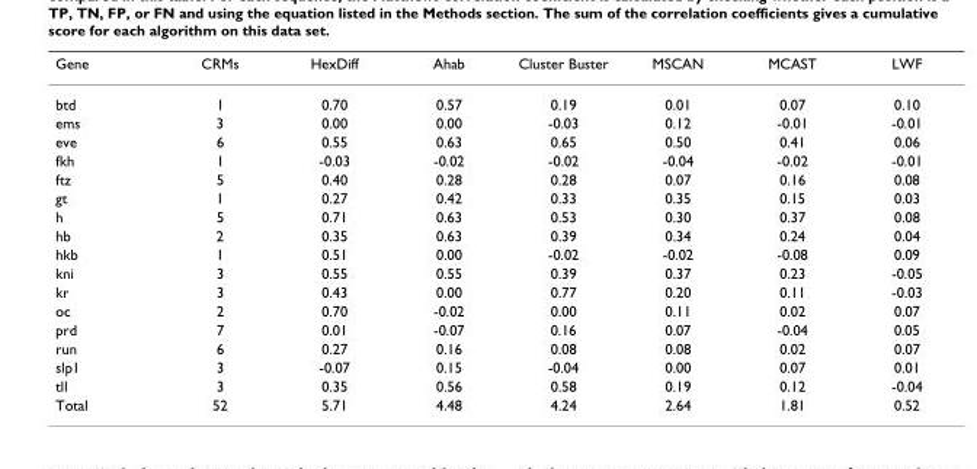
<table><thead><tr><td>Gene</td><td>CRMs</td><td>HexDiff</td><td>Ahab</td><td>Cluster Buster</td><td>MSCAN</td><td>MCAST</td><td>LWF</td></tr></thead><tbody><tr><td>btd</td><td>1</td><td>0.70</td><td>0.57</td><td>0.19</td><td>0.01</td><td>0.07</td><td>0.10</td></tr><tr><td>ems</td><td>3</td><td>0.00</td><td>0.00</td><td>-0.03</td><td>0.12</td><td>-0.01</td><td>-0.01</td></tr><tr><td>eve</td><td>6</td><td>0.55</td><td>0.63</td><td>0.65</td><td>0.50</td><td>0.41</td><td>0.06</td></tr><tr><td>fkh</td><td>1</td><td>-0.03</td><td>-0.02</td><td>-0.02</td><td>-0.04</td><td>-0.02</td><td>-0.01</td></tr><tr><td>ftz</td><td>5</td><td>0.40</td><td>0.28</td><td>0.28</td><td>0.07</td><td>0.16</td><td>0.08</td></tr><tr><td>gt</td><td>1</td><td>0.27</td><td>0.42</td><td>0.33</td><td>0.35</td><td>0.15</td><td>0.03</td></tr><tr><td>h</td><td>5</td><td>0.71</td><td>0.63</td><td>0.53</td><td>0.30</td><td>0.37</td><td>0.08</td></tr><tr><td>hb</td><td>2</td><td>0.35</td><td>0.63</td><td>0.39</td><td>0.34</td><td>0.24</td><td>0.04</td></tr><tr><td>hkb</td><td>1</td><td>0.51</td><td>0.00</td><td>-0.02</td><td>-0.02</td><td>-0.08</td><td>0.09</td></tr><tr><td>kni</td><td>3</td><td>0.55</td><td>0.55</td><td>0.39</td><td>0.37</td><td>0.23</td><td>-0.05</td></tr><tr><td>kr</td><td>3</td><td>0.43</td><td>0.00</td><td>0.77</td><td>0.20</td><td>0.11</td><td>-0.03</td></tr><tr><td>oc</td><td>2</td><td>0.70</td><td>-0.02</td><td>0.00</td><td>0.11</td><td>0.02</td><td>0.07</td></tr><tr><td>prd</td><td>7</td><td>0.01</td><td>-0.07</td><td>0.16</td><td>0.07</td><td>-0.04</td><td>0.05</td></tr><tr><td>run</td><td>6</td><td>0.27</td><td>0.16</td><td>0.08</td><td>0.08</td><td>0.02</td><td>0.07</td></tr><tr><td>slp1</td><td>3</td><td>-0.07</td><td>0.15</td><td>-0.04</td><td>0.00</td><td>0.07</td><td>0.01</td></tr><tr><td>tll</td><td>3</td><td>0.35</td><td>0.56</td><td>0.58</td><td>0.19</td><td>0.12</td><td>-0.04</td></tr><tr><td>Total</td><td>52</td><td>5.71</td><td>4.48</td><td>4.24</td><td>2.64</td><td>1.81</td><td>0.52</td></tr></tbody></table>